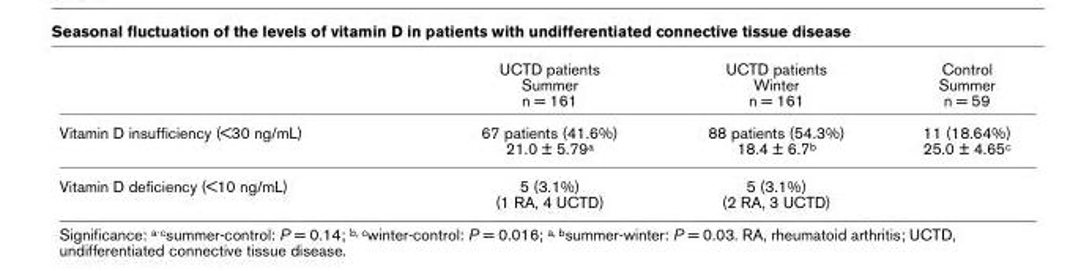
<table><thead><tr><td></td><td>UCTD patients Summer n = 161</td><td>UCTD patients Winter n = 161</td><td>Control Summer n = 59</td></tr></thead><tbody><tr><td>Vitamin D insufficiency (&lt;30 ng/mL)</td><td>67 patients (41.6%) 21.0 ± 5.79<sup>a</sup></td><td>88 patients (54.3%) 18.4 ± 6.7<sup>b</sup></td><td>11 (18.64%) 25.0 ± 4.65<sup>c</sup></td></tr><tr><td>Vitamin D deficiency (&lt;10 ng/mL)</td><td>5 (3.1%) (1 RA, 4 UCTD)</td><td>5 (3.1%) (2 RA, 3 UCTD)</td><td></td></tr></tbody></table>